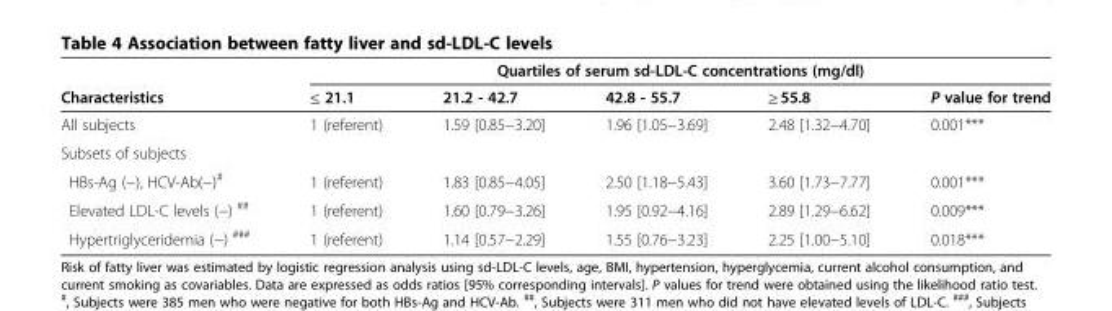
<table><thead><tr><td rowspan="2">Characteristics</td><td colspan="5">Quartiles of serum sd-LDL-C concentrations (mg/dl)</td></tr><tr><td>≤ 21.1</td><td>21.2 - 42.7</td><td>42.8 - 55.7</td><td>≥ 55.8</td><td>P value for trend</td></tr></thead><tbody><tr><td>All subjects</td><td>1 (referent)</td><td>1.59 [0.85−3.20]</td><td>1.96 [1.05−3.69]</td><td>2.48 [1.32−4.70]</td><td>0.001***</td></tr><tr><td colspan="6">Subsets of subjects</td></tr><tr><td>HBs-Ag (−), HCV-Ab(−)<sup>#</sup></td><td>1 (referent)</td><td>1.83 [0.85−4.05]</td><td>2.50 [1.18−5.43]</td><td>3.60 [1.73−7.77]</td><td>0.001***</td></tr><tr><td>Elevated LDL-C levels (−) <sup>##</sup></td><td>1 (referent)</td><td>1.60 [0.79−3.26]</td><td>1.95 [0.92−4.16]</td><td>2.89 [1.29−6.62]</td><td>0.009***</td></tr><tr><td>Hypertriglyceridemia (−) <sup>###</sup></td><td>1 (referent)</td><td>1.14 [0.57−2.29]</td><td>1.55 [0.76−3.23]</td><td>2.25 [1.00−5.10]</td><td>0.018***</td></tr></tbody></table>